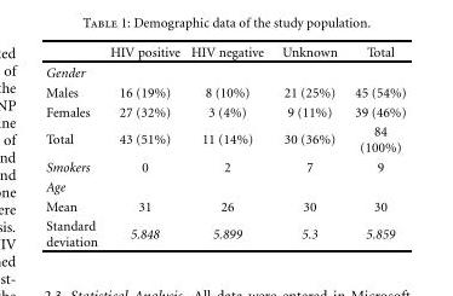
<table><thead><tr><td></td><td>HIV positive</td><td>HIV negative</td><td>Unknown</td><td>Total</td></tr></thead><tbody><tr><td colspan="5">Gender</td></tr><tr><td>Males</td><td>16 (19%)</td><td>8 (10%)</td><td>21 (25%)</td><td>45 (54%)</td></tr><tr><td>Females</td><td>27 (32%)</td><td>3 (4%)</td><td>9 (11%)</td><td>39 (46%)</td></tr><tr><td>Total</td><td>43 (51%)</td><td>11 (14%)</td><td>30 (36%)</td><td>84 (100%)</td></tr><tr><td>Smokers</td><td>0</td><td>2</td><td>7</td><td>9</td></tr><tr><td colspan="5">Age</td></tr><tr><td>Mean</td><td>31</td><td>26</td><td>30</td><td>30</td></tr><tr><td>Standard deviation</td><td>5.848</td><td>5.899</td><td>5.3</td><td>5.859</td></tr></tbody></table>